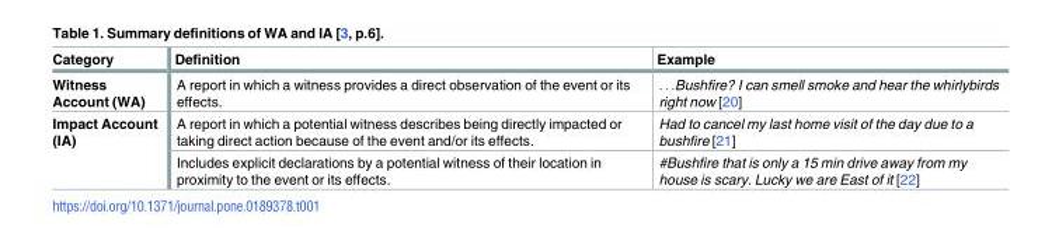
<table><thead><tr><td>Category</td><td>Definition</td><td>Example</td></tr></thead><tbody><tr><td>Witness Account (WA)</td><td>A report in which a witness provides a direct observation of the event or its effects.</td><td>. . .Bushfire? I can smell smoke and hear the whirlybirds right now [20]</td></tr><tr><td rowspan="2">Impact Account (IA)</td><td>A report in which a potential witness describes being directly impacted or taking direct action because of the event and/or its effects.</td><td>Had to cancel my last home visit of the day due to a bushfire [21]</td></tr><tr><td>Includes explicit declarations by a potential witness of their location in proximity to the event or its effects.</td><td>#Bushfire that is only a 15 min drive away from my house is scary. Lucky we are East of it [22]</td></tr></tbody></table>